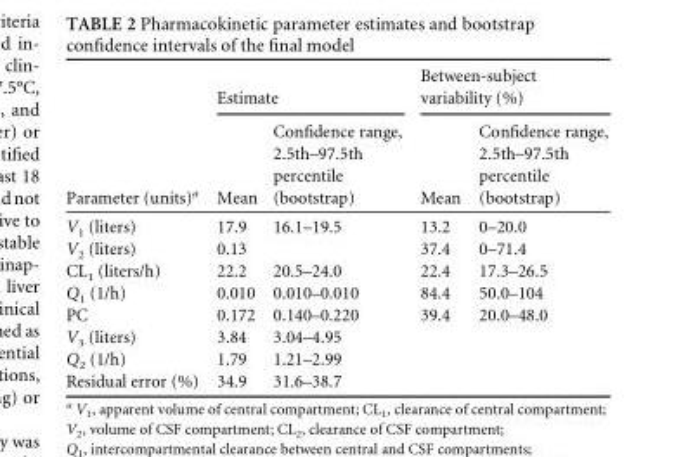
<table><thead><tr><td rowspan="2">Parameter (units)<sup>a</sup></td><td colspan="2">Estimate</td><td colspan="2">Between-subject variability (%)</td></tr><tr><td>Mean</td><td>Confidence range, 2.5th–97.5th percentile (bootstrap)</td><td>Mean</td><td>Confidence range, 2.5th–97.5th percentile (bootstrap)</td></tr></thead><tbody><tr><td>V<sub>1</sub> (liters)</td><td>17.9</td><td>16.1–19.5</td><td>13.2</td><td>0–20.0</td></tr><tr><td>V<sub>2</sub> (liters)</td><td>0.13</td><td></td><td>37.4</td><td>0–71.4</td></tr><tr><td>CL<sub>1</sub> (liters/h)</td><td>22.2</td><td>20.5–24.0</td><td>22.4</td><td>17.3–26.5</td></tr><tr><td>Q<sub>1</sub> (1/h)</td><td>0.010</td><td>0.010–0.010</td><td>84.4</td><td>50.0–104</td></tr><tr><td>PC</td><td>0.172</td><td>0.140–0.220</td><td>39.4</td><td>20.0–48.0</td></tr><tr><td>V<sub>3</sub> (liters)</td><td>3.84</td><td>3.04–4.95</td><td></td><td></td></tr><tr><td>Q<sub>2</sub> (1/h)</td><td>1.79</td><td>1.21–2.99</td><td></td><td></td></tr><tr><td>Residual error (%)</td><td>34.9</td><td>31.6–38.7</td><td></td><td></td></tr></tbody></table>